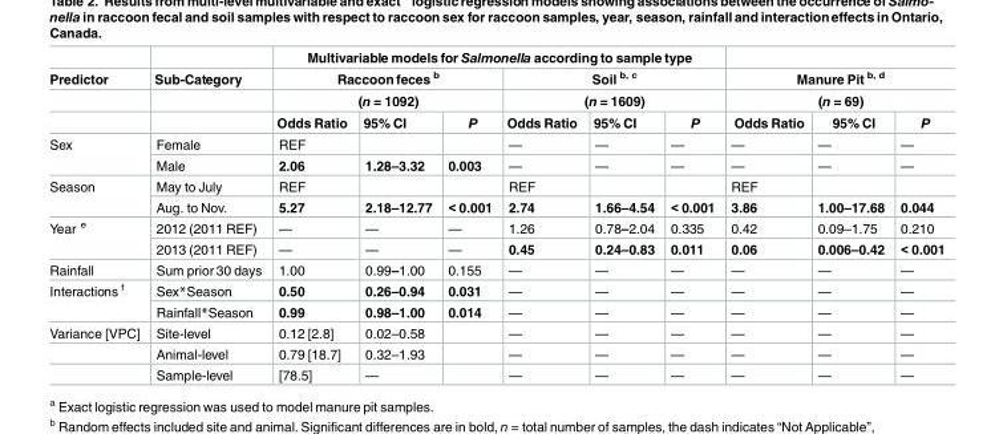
<table><thead><tr><td rowspan="4">Predictor</td><td rowspan="4">Sub-Category</td><td colspan="6">Multivariable models for Salmonella according to sample type</td><td></td><td></td><td></td></tr><tr><td rowspan="2" colspan="3">Raccoon feces <sup>b</sup> (n = 1092)</td><td rowspan="2" colspan="3">Soil <sup>b, c</sup> (n = 1609)</td><td rowspan="2" colspan="3">Manure Pit <sup>b, d</sup> (n = 69)</td></tr><tr></tr><tr><td>Odds Ratio</td><td>95% CI</td><td>P</td><td>Odds Ratio</td><td>95% CI</td><td>P</td><td>Odds Ratio</td><td>95% CI</td><td>P</td></tr></thead><tbody><tr><td rowspan="2">Sex</td><td>Female</td><td>REF</td><td></td><td></td><td>—</td><td>—</td><td>—</td><td>—</td><td>—</td><td>—</td></tr><tr><td>Male</td><td>2.06</td><td>1.28–3.32</td><td>0.003</td><td>—</td><td>—</td><td>—</td><td>—</td><td>—</td><td>—</td></tr><tr><td rowspan="2">Season</td><td>May to July</td><td>REF</td><td></td><td></td><td>REF</td><td></td><td></td><td>REF</td><td></td><td></td></tr><tr><td>Aug. to Nov.</td><td>5.27</td><td>2.18–12.77</td><td>&lt; 0.001</td><td>2.74</td><td>1.66–4.54</td><td>&lt; 0.001</td><td>3.86</td><td>1.00–17.68</td><td>0.044</td></tr><tr><td rowspan="2">Year <sup>e</sup></td><td>2012 (2011 REF)</td><td>—</td><td>—</td><td>—</td><td>1.26</td><td>0.78–2.04</td><td>0.335</td><td>0.42</td><td>0.09–1.75</td><td>0.210</td></tr><tr><td>2013 (2011 REF)</td><td>—</td><td>—</td><td>—</td><td>0.45</td><td>0.24–0.83</td><td>0.011</td><td>0.06</td><td>0.006–0.42</td><td>&lt; 0.001</td></tr><tr><td>Rainfall</td><td>Sum prior 30 days</td><td>1.00</td><td>0.99–1.00</td><td>0.155</td><td>—</td><td>—</td><td>—</td><td>—</td><td>—</td><td>—</td></tr><tr><td rowspan="2">Interactions <sup>f</sup></td><td>Sex*Season</td><td>0.50</td><td>0.26–0.94</td><td>0.031</td><td>—</td><td>—</td><td>—</td><td>—</td><td>—</td><td>—</td></tr><tr><td>Rainfall*Season</td><td>0.99</td><td>0.98–1.00</td><td>0.014</td><td>—</td><td>—</td><td>—</td><td>—</td><td>—</td><td>—</td></tr><tr><td rowspan="3">Variance [VPC]</td><td>Site-level</td><td>0.12 [2.8]</td><td>0.02–0.58</td><td></td><td>—</td><td>—</td><td>—</td><td>—</td><td>—</td><td>—</td></tr><tr><td>Animal-level</td><td>0.79 [18.7]</td><td>0.32–1.93</td><td></td><td>—</td><td>—</td><td>—</td><td>—</td><td>—</td><td>—</td></tr><tr><td>Sample-level</td><td>[78.5]</td><td>—</td><td></td><td>—</td><td>—</td><td>—</td><td>—</td><td>—</td><td>—</td></tr></tbody></table>